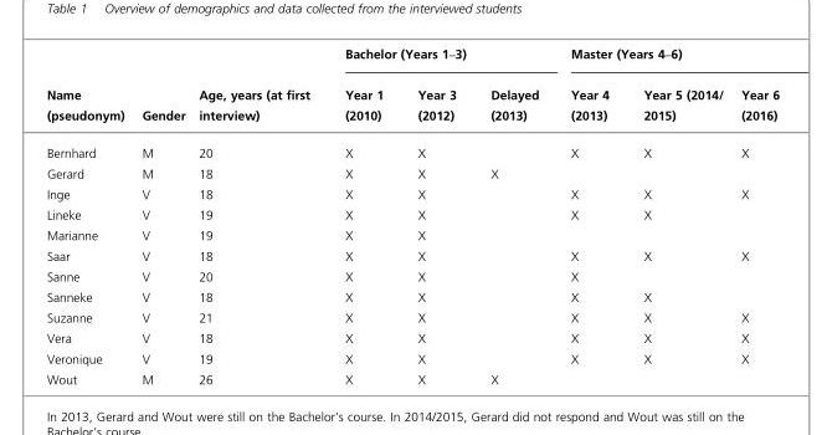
<table><thead><tr><td rowspan="2">Name (pseudonym)</td><td rowspan="2">Gender</td><td rowspan="2">Age, years (at first interview)</td><td colspan="3">Bachelor (Years 1–3)</td><td colspan="3">Master (Years 4–6)</td></tr><tr><td>Year 1 (2010)</td><td>Year 3 (2012)</td><td>Delayed (2013)</td><td>Year 4 (2013)</td><td>Year 5 (2014/ 2015)</td><td>Year 6 (2016)</td></tr></thead><tbody><tr><td>Bernhard</td><td>M</td><td>20</td><td>X</td><td>X</td><td></td><td>X</td><td>X</td><td>X</td></tr><tr><td>Gerard</td><td>M</td><td>18</td><td>X</td><td>X</td><td>X</td><td></td><td></td><td></td></tr><tr><td>Inge</td><td>V</td><td>18</td><td>X</td><td>X</td><td></td><td>X</td><td>X</td><td>X</td></tr><tr><td>Lineke</td><td>V</td><td>19</td><td>X</td><td>X</td><td></td><td>X</td><td>X</td><td></td></tr><tr><td>Marianne</td><td>V</td><td>19</td><td>X</td><td>X</td><td></td><td></td><td></td><td></td></tr><tr><td>Saar</td><td>V</td><td>18</td><td>X</td><td>X</td><td></td><td>X</td><td>X</td><td>X</td></tr><tr><td>Sanne</td><td>V</td><td>20</td><td>X</td><td>X</td><td></td><td>X</td><td></td><td></td></tr><tr><td>Sanneke</td><td>V</td><td>18</td><td>X</td><td>X</td><td></td><td>X</td><td>X</td><td></td></tr><tr><td>Suzanne</td><td>V</td><td>21</td><td>X</td><td>X</td><td></td><td>X</td><td>X</td><td>X</td></tr><tr><td>Vera</td><td>V</td><td>18</td><td>X</td><td>X</td><td></td><td>X</td><td>X</td><td>X</td></tr><tr><td>Veronique</td><td>V</td><td>19</td><td>X</td><td>X</td><td></td><td>X</td><td>X</td><td>X</td></tr><tr><td>Wout</td><td>M</td><td>26</td><td>X</td><td>X</td><td>X</td><td></td><td></td><td></td></tr></tbody></table>